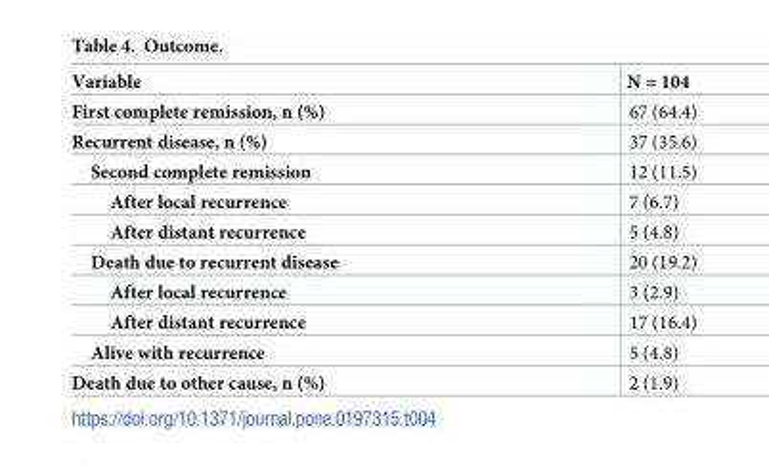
<table><thead><tr><td>Variable</td><td>N = 104</td></tr></thead><tbody><tr><td>First complete remission, n (%)</td><td>67 (64.4)</td></tr><tr><td>Recurrent disease, n (%)</td><td>37 (35.6)</td></tr><tr><td>Second complete remission</td><td>12 (11.5)</td></tr><tr><td>After local recurrence</td><td>7 (6.7)</td></tr><tr><td>After distant recurrence</td><td>5 (4.8)</td></tr><tr><td>Death due to recurrent disease</td><td>20 (19.2)</td></tr><tr><td>After local recurrence</td><td>3 (2.9)</td></tr><tr><td>After distant recurrence</td><td>17 (16.4)</td></tr><tr><td>Alive with recurrence</td><td>5 (4.8)</td></tr><tr><td>Death due to other cause, n (%)</td><td>2 (1.9)</td></tr></tbody></table>